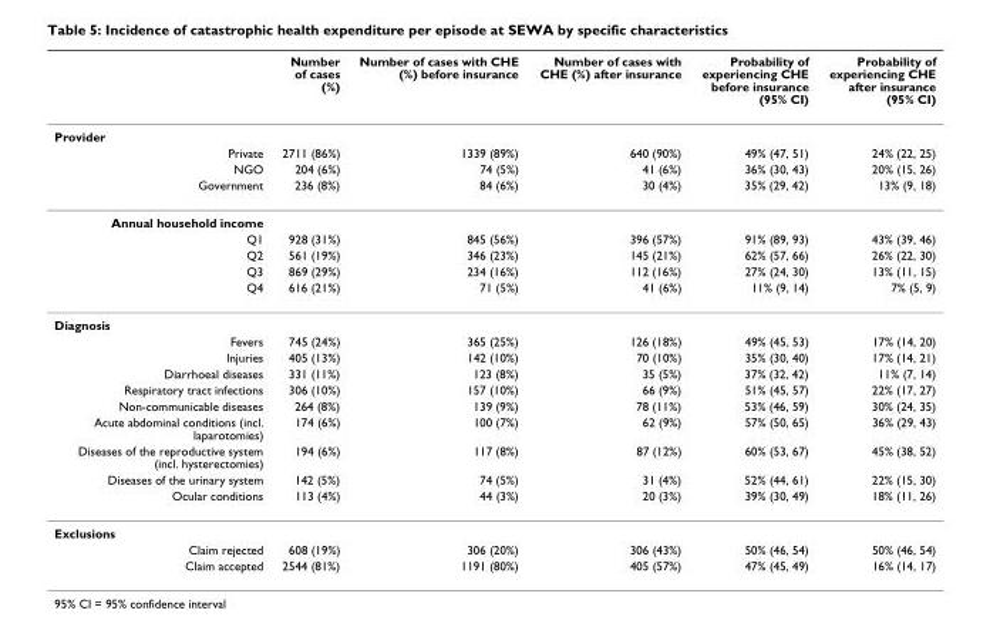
<table><thead><tr><td></td><td>Number of cases (%)</td><td>Number of cases with CHE (%) before insurance</td><td>Number of cases with CHE (%) after insurance</td><td>Probability of experiencing CHE before insurance (95% CI)</td><td>Probability of experiencing CHE after insurance (95% CI)</td></tr></thead><tbody><tr><td colspan="6">Provider</td></tr><tr><td>Private</td><td>2711 (86%)</td><td>1339 (89%)</td><td>640 (90%)</td><td>49% (47, 51)</td><td>24% (22, 25)</td></tr><tr><td>NGO</td><td>204 (6%)</td><td>74 (5%)</td><td>41 (6%)</td><td>36% (30, 43)</td><td>20% (15, 26)</td></tr><tr><td>Government</td><td>236 (8%)</td><td>84 (6%)</td><td>30 (4%)</td><td>35% (29, 42)</td><td>13% (9, 18)</td></tr><tr><td colspan="6">Annual household income</td></tr><tr><td>Q1</td><td>928 (31%)</td><td>845 (56%)</td><td>396 (57%)</td><td>91% (89, 93)</td><td>43% (39, 46)</td></tr><tr><td>Q2</td><td>561 (19%)</td><td>346 (23%)</td><td>145 (21%)</td><td>62% (57, 66)</td><td>26% (22, 30)</td></tr><tr><td>Q3</td><td>869 (29%)</td><td>234 (16%)</td><td>112 (16%)</td><td>27% (24, 30)</td><td>13% (11, 15)</td></tr><tr><td>Q4</td><td>616 (21%)</td><td>71 (5%)</td><td>41 (6%)</td><td>11% (9, 14)</td><td>7% (5, 9)</td></tr><tr><td colspan="6">Diagnosis</td></tr><tr><td>Fevers</td><td>745 (24%)</td><td>365 (25%)</td><td>126 (18%)</td><td>49% (45, 53)</td><td>17% (14, 20)</td></tr><tr><td>Injuries</td><td>405 (13%)</td><td>142 (10%)</td><td>70 (10%)</td><td>35% (30, 40)</td><td>17% (14, 21)</td></tr><tr><td>Diarrhoeal diseases</td><td>331 (11%)</td><td>123 (8%)</td><td>35 (5%)</td><td>37% (32, 42)</td><td>11% (7, 14)</td></tr><tr><td>Respiratory tract infections</td><td>306 (10%)</td><td>157 (10%)</td><td>66 (9%)</td><td>51% (45, 57)</td><td>22% (17, 27)</td></tr><tr><td>Non-communicable diseases</td><td>264 (8%)</td><td>139 (9%)</td><td>78 (11%)</td><td>53% (46, 59)</td><td>30% (24, 35)</td></tr><tr><td>Acute abdominal conditions (incl. laparotomies)</td><td>174 (6%)</td><td>100 (7%)</td><td>62 (9%)</td><td>57% (50, 65)</td><td>36% (29, 43)</td></tr><tr><td>Diseases of the reproductive system (incl. hysterectomies)</td><td>194 (6%)</td><td>117 (8%)</td><td>87 (12%)</td><td>60% (53, 67)</td><td>45% (38, 52)</td></tr><tr><td>Diseases of the urinary system</td><td>142 (5%)</td><td>74 (5%)</td><td>31 (4%)</td><td>52% (44, 61)</td><td>22% (15, 30)</td></tr><tr><td>Ocular conditions</td><td>113 (4%)</td><td>44 (3%)</td><td>20 (3%)</td><td>39% (30, 49)</td><td>18% (11, 26)</td></tr><tr><td colspan="6">Exclusions</td></tr><tr><td>Claim rejected</td><td>608 (19%)</td><td>306 (20%)</td><td>306 (43%)</td><td>50% (46, 54)</td><td>50% (46, 54)</td></tr><tr><td>Claim accepted</td><td>2544 (81%)</td><td>1191 (80%)</td><td>405 (57%)</td><td>47% (45, 49)</td><td>16% (14, 17)</td></tr></tbody></table>